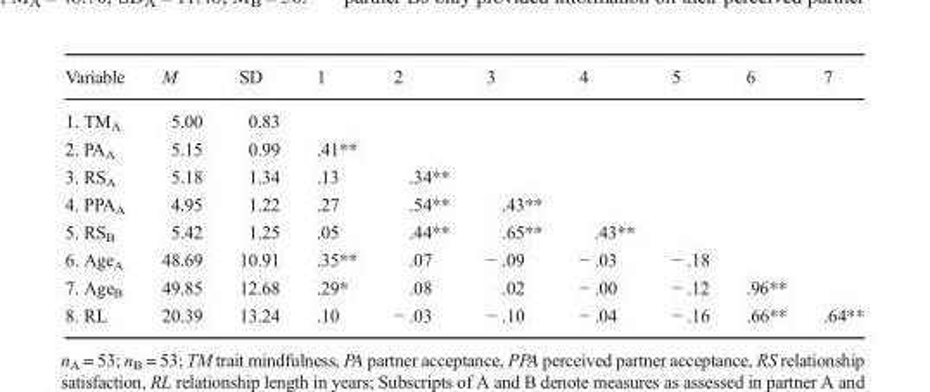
<table><thead><tr><td>Variable</td><td>M</td><td>SD</td><td>1</td><td>2</td><td>3</td><td>4</td><td>5</td><td>6</td><td>7</td></tr></thead><tbody><tr><td>1. TM<sub>A</sub></td><td>5.00</td><td>0.83</td><td></td><td></td><td></td><td></td><td></td><td></td><td></td></tr><tr><td>2. PA<sub>A</sub></td><td>5.15</td><td>0.99</td><td>.41**</td><td></td><td></td><td></td><td></td><td></td><td></td></tr><tr><td>3. RS<sub>A</sub></td><td>5.18</td><td>1.34</td><td>.13</td><td>.34**</td><td></td><td></td><td></td><td></td><td></td></tr><tr><td>4. PPA<sub>A</sub></td><td>4.95</td><td>1.22</td><td>.27</td><td>.54**</td><td>.43**</td><td></td><td></td><td></td><td></td></tr><tr><td>5. RS<sub>B</sub></td><td>5.42</td><td>1.25</td><td>.05</td><td>.44**</td><td>.65**</td><td>.43**</td><td></td><td></td><td></td></tr><tr><td>6. Age<sub>A</sub></td><td>48.69</td><td>10.91</td><td>.35**</td><td>.07</td><td>− .09</td><td>− .03</td><td>− .18</td><td></td><td></td></tr><tr><td>7. Age<sub>B</sub></td><td>49.85</td><td>12.68</td><td>.29*</td><td>.08</td><td>.02</td><td>− .00</td><td>− .12</td><td>.96**</td><td></td></tr><tr><td>8. RL</td><td>20.39</td><td>13.24</td><td>.10</td><td>− .03</td><td>− .10</td><td>− .04</td><td>− .16</td><td>.66**</td><td>.64**</td></tr></tbody></table>